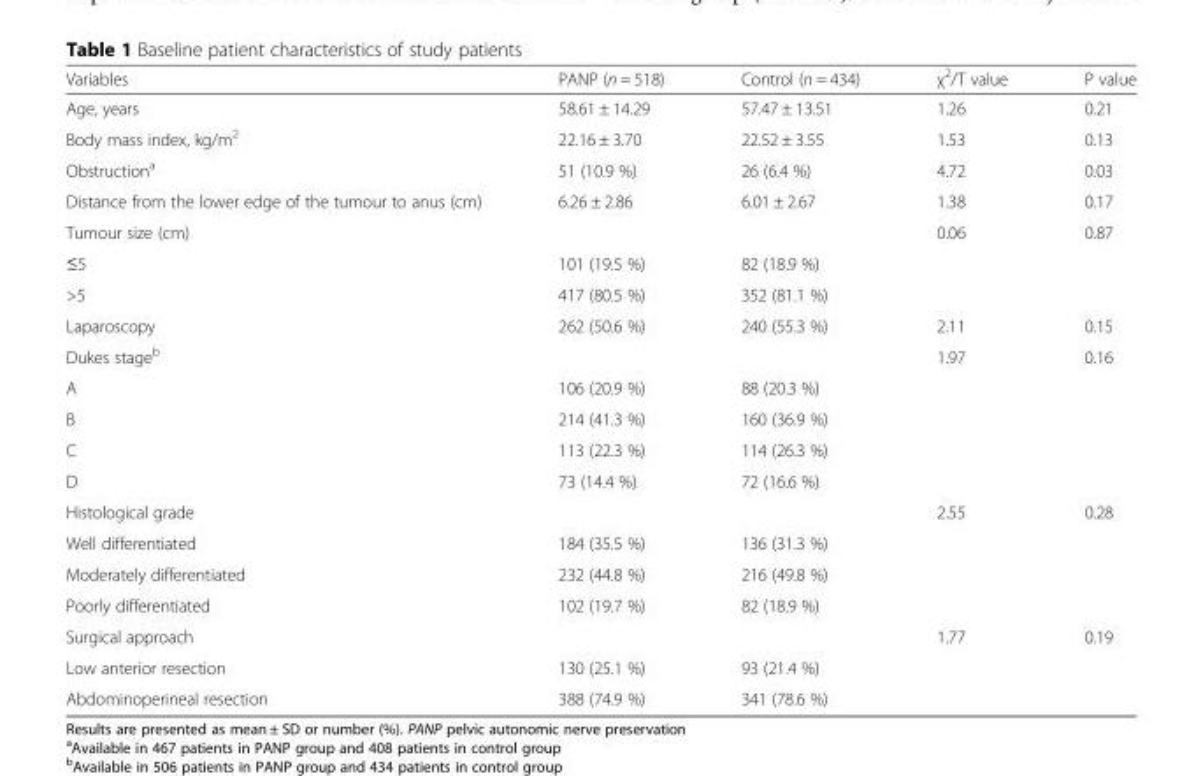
<table><thead><tr><td>Variables</td><td>PANP (n = 518)</td><td>Control (n = 434)</td><td>χ<sup>2</sup>/T value</td><td>P value</td></tr></thead><tbody><tr><td>Age, years</td><td>58.61 ± 14.29</td><td>57.47 ± 13.51</td><td>1.26</td><td>0.21</td></tr><tr><td>Body mass index, kg/m<sup>2</sup></td><td>22.16 ± 3.70</td><td>22.52 ± 3.55</td><td>1.53</td><td>0.13</td></tr><tr><td>Obstruction<sup>a</sup></td><td>51 (10.9 %)</td><td>26 (6.4 %)</td><td>4.72</td><td>0.03</td></tr><tr><td>Distance from the lower edge of the tumour to anus (cm)</td><td>6.26 ± 2.86</td><td>6.01 ± 2.67</td><td>1.38</td><td>0.17</td></tr><tr><td>Tumour size (cm)</td><td></td><td></td><td>0.06</td><td>0.87</td></tr><tr><td>≤5</td><td>101 (19.5 %)</td><td>82 (18.9 %)</td><td></td><td></td></tr><tr><td>&gt;5</td><td>417 (80.5 %)</td><td>352 (81.1 %)</td><td></td><td></td></tr><tr><td>Laparoscopy</td><td>262 (50.6 %)</td><td>240 (55.3 %)</td><td>2.11</td><td>0.15</td></tr><tr><td>Dukes stage<sup>b</sup></td><td></td><td></td><td>1.97</td><td>0.16</td></tr><tr><td>A</td><td>106 (20.9 %)</td><td>88 (20.3 %)</td><td></td><td></td></tr><tr><td>B</td><td>214 (41.3 %)</td><td>160 (36.9 %)</td><td></td><td></td></tr><tr><td>C</td><td>113 (22.3 %)</td><td>114 (26.3 %)</td><td></td><td></td></tr><tr><td>D</td><td>73 (14.4 %)</td><td>72 (16.6 %)</td><td></td><td></td></tr><tr><td>Histological grade</td><td></td><td></td><td>2.55</td><td>0.28</td></tr><tr><td>Well differentiated</td><td>184 (35.5 %)</td><td>136 (31.3 %)</td><td></td><td></td></tr><tr><td>Moderately differentiated</td><td>232 (44.8 %)</td><td>216 (49.8 %)</td><td></td><td></td></tr><tr><td>Poorly differentiated</td><td>102 (19.7 %)</td><td>82 (18.9 %)</td><td></td><td></td></tr><tr><td>Surgical approach</td><td></td><td></td><td>1.77</td><td>0.19</td></tr><tr><td>Low anterior resection</td><td>130 (25.1 %)</td><td>93 (21.4 %)</td><td></td><td></td></tr><tr><td>Abdominoperineal resection</td><td>388 (74.9 %)</td><td>341 (78.6 %)</td><td></td><td></td></tr></tbody></table>